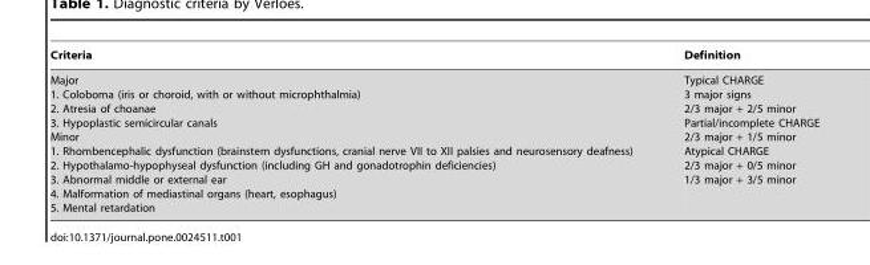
<table><thead><tr><td>Criteria</td><td>Definition</td></tr></thead><tbody><tr><td>Major 1. Coloboma (iris or choroid, with or without microphthalmia) 2. Atresia of choanae 3. Hypoplastic semicircular canals Minor 1. Rhombencephalic dysfunction (brainstem dysfunctions, cranial nerve VII to XII palsies and neurosensory deafness) 2. Hypothalamo-hypophyseal dysfunction (including GH and gonadotrophin deficiencies) 3. Abnormal middle or external ear 4. Malformation of mediastinal organs (heart, esophagus) 5. Mental retardation</td><td>Typical CHARGE 3 major signs 2/3 major + 2/5 minor Partial/incomplete CHARGE 2/3 major + 1/5 minor Atypical CHARGE 2/3 major + 0/5 minor 1/3 major + 3/5 minor</td></tr></tbody></table>